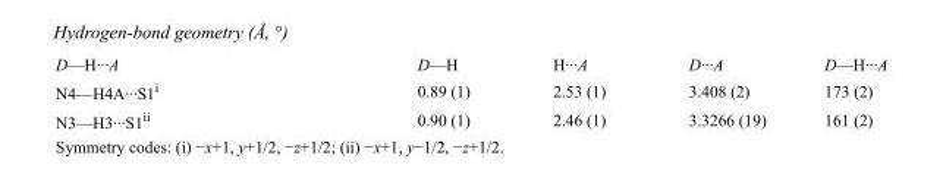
<table><tbody><tr><td>D—H···A</td><td>D—H</td><td>H···A</td><td>D···A</td><td>D—H···A</td></tr><tr><td>N4—H4A···S1<sup>i</sup></td><td>0.89 (1)</td><td>2.53 (1)</td><td>3.408 (2)</td><td>173 (2)</td></tr><tr><td>N3—H3···S1<sup>ii</sup></td><td>0.90 (1)</td><td>2.46 (1)</td><td>3.3266 (19)</td><td>161 (2)</td></tr></tbody></table>